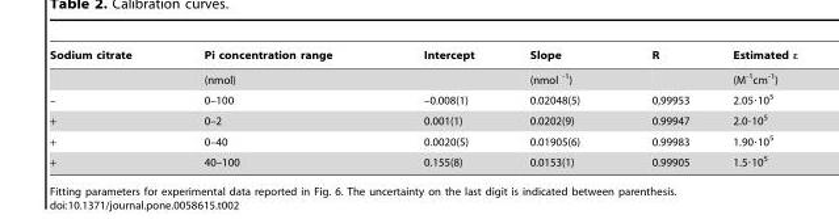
<table><thead><tr><td>Sodium citrate</td><td>Pi concentration range</td><td>Intercept</td><td>Slope</td><td>R</td><td>Estimated</td></tr></thead><tbody><tr><td></td><td>(nmol)</td><td></td><td>(nmol <sup>-1</sup>)</td><td></td><td>(M<sup>-1</sup>cm<sup>-1</sup>)</td></tr><tr><td>–</td><td>0–100</td><td>–0.008(1)</td><td>0.02048(5)</td><td>0,99953</td><td>2.05·10<sup>5</sup></td></tr><tr><td>+</td><td>0–2</td><td>0.001(1)</td><td>0.0202(9)</td><td>0.99947</td><td>2.0·10<sup>5</sup></td></tr><tr><td>+</td><td>0–40</td><td>0.0020(5)</td><td>0.01905(6)</td><td>0.99983</td><td>1.90·10<sup>5</sup></td></tr><tr><td>+</td><td>40–100</td><td>0.155(8)</td><td>0.0153(1)</td><td>0.99905</td><td>1.5·10<sup>5</sup></td></tr></tbody></table>